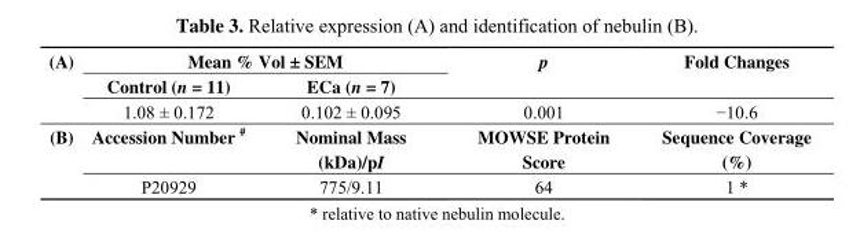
<table><thead><tr><td rowspan="2">(A)</td><td colspan="2">Mean % Vol ± SEM</td><td rowspan="2">p</td><td rowspan="2">Fold Changes</td></tr><tr><td>Control (n = 11)</td><td>ECa (n = 7)</td></tr></thead><tbody><tr><td></td><td>1.08 ± 0.172</td><td>0.102 ± 0.095</td><td>0.001</td><td>−10.6</td></tr><tr><td rowspan="2">(B)</td><td>Accession Number <sup>#</sup></td><td>Nominal Mass (kDa)/pI</td><td>MOWSE Protein Score</td><td>Sequence Coverage (%)</td></tr><tr><td>P20929</td><td>775/9.11</td><td>64</td><td>1 *</td></tr></tbody></table>